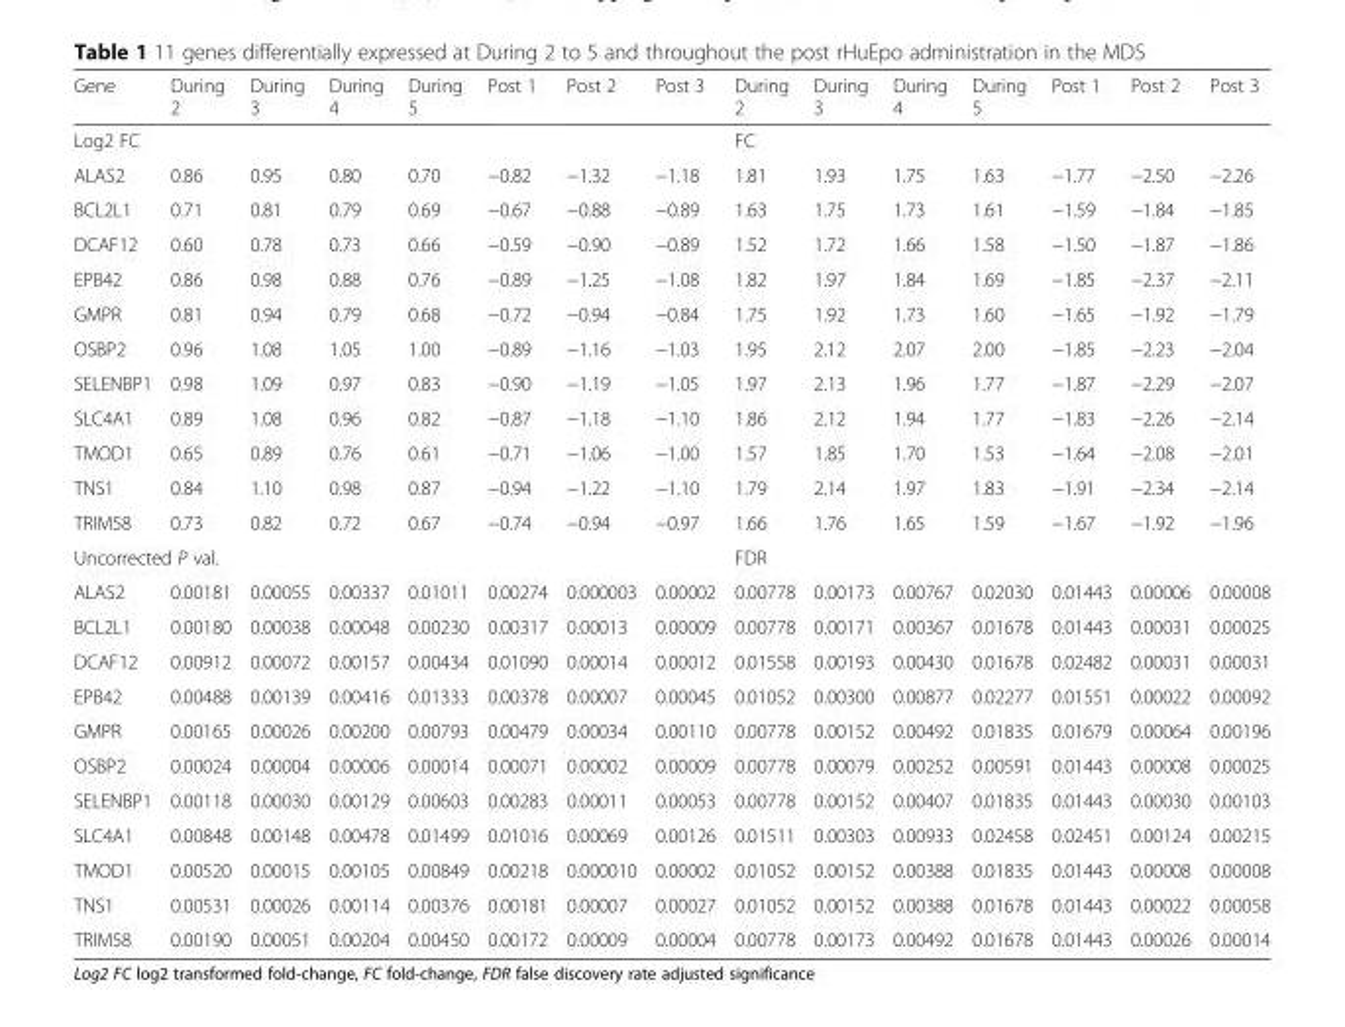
<table><thead><tr><td>Gene</td><td>During 2</td><td>During 3</td><td>During 4</td><td>During 5</td><td>Post 1</td><td>Post 2</td><td>Post 3</td><td>During 2</td><td>During 3</td><td>During 4</td><td>During 5</td><td>Post 1</td><td>Post 2</td><td>Post 3</td></tr></thead><tbody><tr><td colspan="8">Log2 FC</td><td colspan="7">FC</td></tr><tr><td>ALAS2</td><td>0.86</td><td>0.95</td><td>0.80</td><td>0.70</td><td>−0.82</td><td>−1.32</td><td>−1.18</td><td>1.81</td><td>1.93</td><td>1.75</td><td>1.63</td><td>−1.77</td><td>−2.50</td><td>−2.26</td></tr><tr><td>BCL2L1</td><td>0.71</td><td>0.81</td><td>0.79</td><td>0.69</td><td>−0.67</td><td>−0.88</td><td>−0.89</td><td>1.63</td><td>1.75</td><td>1.73</td><td>1.61</td><td>−1.59</td><td>−1.84</td><td>−1.85</td></tr><tr><td>DCAF12</td><td>0.60</td><td>0.78</td><td>0.73</td><td>0.66</td><td>−0.59</td><td>−0.90</td><td>−0.89</td><td>1.52</td><td>1.72</td><td>1.66</td><td>1.58</td><td>−1.50</td><td>−1.87</td><td>−1.86</td></tr><tr><td>EPB42</td><td>0.86</td><td>0.98</td><td>0.88</td><td>0.76</td><td>−0.89</td><td>−1.25</td><td>−1.08</td><td>1.82</td><td>1.97</td><td>1.84</td><td>1.69</td><td>−1.85</td><td>−2.37</td><td>−2.11</td></tr><tr><td>GMPR</td><td>0.81</td><td>0.94</td><td>0.79</td><td>0.68</td><td>−0.72</td><td>−0.94</td><td>−0.84</td><td>1.75</td><td>1.92</td><td>1.73</td><td>1.60</td><td>−1.65</td><td>−1.92</td><td>−1.79</td></tr><tr><td>OSBP2</td><td>0.96</td><td>1.08</td><td>1.05</td><td>1.00</td><td>−0.89</td><td>−1.16</td><td>−1.03</td><td>1.95</td><td>2.12</td><td>2.07</td><td>2.00</td><td>−1.85</td><td>−2.23</td><td>−2.04</td></tr><tr><td>SELENBP1</td><td>0.98</td><td>1.09</td><td>0.97</td><td>0.83</td><td>−0.90</td><td>−1.19</td><td>−1.05</td><td>1.97</td><td>2.13</td><td>1.96</td><td>1.77</td><td>−1.87</td><td>−2.29</td><td>−2.07</td></tr><tr><td>SLC4A1</td><td>0.89</td><td>1.08</td><td>0.96</td><td>0.82</td><td>−0.87</td><td>−1.18</td><td>−1.10</td><td>1.86</td><td>2.12</td><td>1.94</td><td>1.77</td><td>−1.83</td><td>−2.26</td><td>−2.14</td></tr><tr><td>TMOD1</td><td>0.65</td><td>0.89</td><td>0.76</td><td>0.61</td><td>−0.71</td><td>−1.06</td><td>−1.00</td><td>1.57</td><td>1.85</td><td>1.70</td><td>1.53</td><td>−1.64</td><td>−2.08</td><td>−2.01</td></tr><tr><td>TNS1</td><td>0.84</td><td>1.10</td><td>0.98</td><td>0.87</td><td>−0.94</td><td>−1.22</td><td>−1.10</td><td>1.79</td><td>2.14</td><td>1.97</td><td>1.83</td><td>−1.91</td><td>−2.34</td><td>−2.14</td></tr><tr><td>TRIM58</td><td>0.73</td><td>0.82</td><td>0.72</td><td>0.67</td><td>−0.74</td><td>−0.94</td><td>−0.97</td><td>1.66</td><td>1.76</td><td>1.65</td><td>1.59</td><td>−1.67</td><td>−1.92</td><td>−1.96</td></tr><tr><td colspan="8">Uncorrected P val.</td><td colspan="7">FDR</td></tr><tr><td>ALAS2</td><td>0.00181</td><td>0.00055</td><td>0.00337</td><td>0.01011</td><td>0.00274</td><td>0.000003</td><td>0.00002</td><td>0.00778</td><td>0.00173</td><td>0.00767</td><td>0.02030</td><td>0.01443</td><td>0.00006</td><td>0.00008</td></tr><tr><td>BCL2L1</td><td>0.00180</td><td>0.00038</td><td>0.00048</td><td>0.00230</td><td>0.00317</td><td>0.00013</td><td>0.00009</td><td>0.00778</td><td>0.00171</td><td>0.00367</td><td>0.01678</td><td>0.01443</td><td>0.00031</td><td>0.00025</td></tr><tr><td>DCAF12</td><td>0.00912</td><td>0.00072</td><td>0.00157</td><td>0.00434</td><td>0.01090</td><td>0.00014</td><td>0.00012</td><td>0.01558</td><td>0.00193</td><td>0.00430</td><td>0.01678</td><td>0.02482</td><td>0.00031</td><td>0.00031</td></tr><tr><td>EPB42</td><td>0.00488</td><td>0.00139</td><td>0.00416</td><td>0.01333</td><td>0.00378</td><td>0.00007</td><td>0.00045</td><td>0.01052</td><td>0.00300</td><td>0.00877</td><td>0.02277</td><td>0.01551</td><td>0.00022</td><td>0.00092</td></tr><tr><td>GMPR</td><td>0.00165</td><td>0.00026</td><td>0.00200</td><td>0.00793</td><td>0.00479</td><td>0.00034</td><td>0.00110</td><td>0.00778</td><td>0.00152</td><td>0.00492</td><td>0.01835</td><td>0.01679</td><td>0.00064</td><td>0.00196</td></tr><tr><td>OSBP2</td><td>0.00024</td><td>0.00004</td><td>0.00006</td><td>0.00014</td><td>0.00071</td><td>0.00002</td><td>0.00009</td><td>0.00778</td><td>0.00079</td><td>0.00252</td><td>0.00591</td><td>0.01443</td><td>0.00008</td><td>0.00025</td></tr><tr><td>SELENBP1</td><td>0.00118</td><td>0.00030</td><td>0.00129</td><td>0.00603</td><td>0.00283</td><td>0.00011</td><td>0.00053</td><td>0.00778</td><td>0.00152</td><td>0.00407</td><td>0.01835</td><td>0.01443</td><td>0.00030</td><td>0.00103</td></tr><tr><td>SLC4A1</td><td>0.00848</td><td>0.00148</td><td>0.00478</td><td>0.01499</td><td>0.01016</td><td>0.00069</td><td>0.00126</td><td>0.01511</td><td>0.00303</td><td>0.00933</td><td>0.02458</td><td>0.02451</td><td>0.00124</td><td>0.00215</td></tr><tr><td>TMOD1</td><td>0.00520</td><td>0.00015</td><td>0.00105</td><td>0.00849</td><td>0.00218</td><td>0.000010</td><td>0.00002</td><td>0.01052</td><td>0.00152</td><td>0.00388</td><td>0.01835</td><td>0.01443</td><td>0.00008</td><td>0.00008</td></tr><tr><td>TNS1</td><td>0.00531</td><td>0.00026</td><td>0.00114</td><td>0.00376</td><td>0.00181</td><td>0.00007</td><td>0.00027</td><td>0.01052</td><td>0.00152</td><td>0.00388</td><td>0.01678</td><td>0.01443</td><td>0.00022</td><td>0.00058</td></tr><tr><td>TRIM58</td><td>0.00190</td><td>0.00051</td><td>0.00204</td><td>0.00450</td><td>0.00172</td><td>0.00009</td><td>0.00004</td><td>0.00778</td><td>0.00173</td><td>0.00492</td><td>0.01678</td><td>0.01443</td><td>0.00026</td><td>0.00014</td></tr></tbody></table>